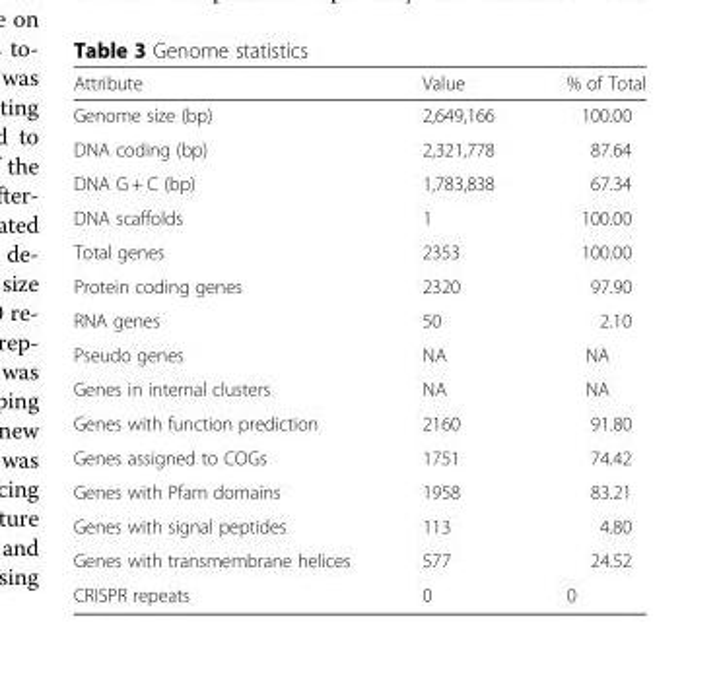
<table><thead><tr><td>Attribute</td><td>Value</td><td>% of Total</td></tr></thead><tbody><tr><td>Genome size (bp)</td><td>2,649,166</td><td>100.00</td></tr><tr><td>DNA coding (bp)</td><td>2,321,778</td><td>87.64</td></tr><tr><td>DNA G + C (bp)</td><td>1,783,838</td><td>67.34</td></tr><tr><td>DNA scaffolds</td><td>1</td><td>100.00</td></tr><tr><td>Total genes</td><td>2353</td><td>100.00</td></tr><tr><td>Protein coding genes</td><td>2320</td><td>97.90</td></tr><tr><td>RNA genes</td><td>50</td><td>2.10</td></tr><tr><td>Pseudo genes</td><td>NA</td><td>NA</td></tr><tr><td>Genes in internal clusters</td><td>NA</td><td>NA</td></tr><tr><td>Genes with function prediction</td><td>2160</td><td>91.80</td></tr><tr><td>Genes assigned to COGs</td><td>1751</td><td>74.42</td></tr><tr><td>Genes with Pfam domains</td><td>1958</td><td>83.21</td></tr><tr><td>Genes with signal peptides</td><td>113</td><td>4.80</td></tr><tr><td>Genes with transmembrane helices</td><td>577</td><td>24.52</td></tr><tr><td>CRISPR repeats</td><td>0</td><td>0</td></tr></tbody></table>